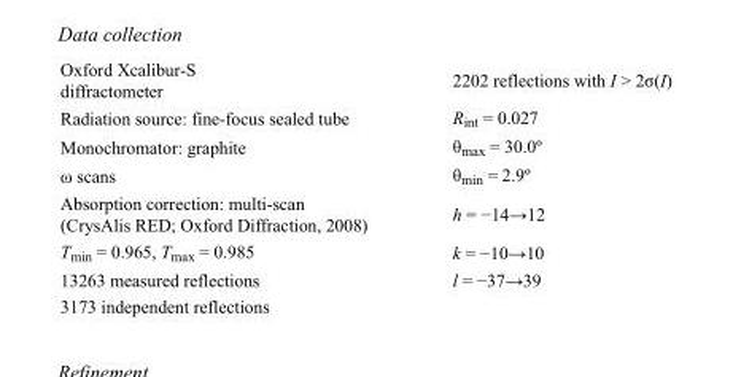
<table><tbody><tr><td>Oxford Xcalibur-S diffractometer</td><td>2202 reflections with I &gt; 2σ(I)</td></tr><tr><td>Radiation source: fine-focus sealed tube</td><td>R<sub>int</sub> = 0.027</td></tr><tr><td>Monochromator: graphite</td><td>θ<sub>max</sub> = 30.0º</td></tr><tr><td>ω scans</td><td>θ<sub>min</sub> = 2.9º</td></tr><tr><td>Absorption correction: multi-scan (CrysAlis RED; Oxford Diffraction, 2008)</td><td>h = −14→12</td></tr><tr><td>T<sub>min</sub> = 0.965, T<sub>max</sub> = 0.985</td><td>k = −10→10</td></tr><tr><td>13263 measured reflections</td><td>l = −37→39</td></tr><tr><td>3173 independent reflections</td><td></td></tr></tbody></table>